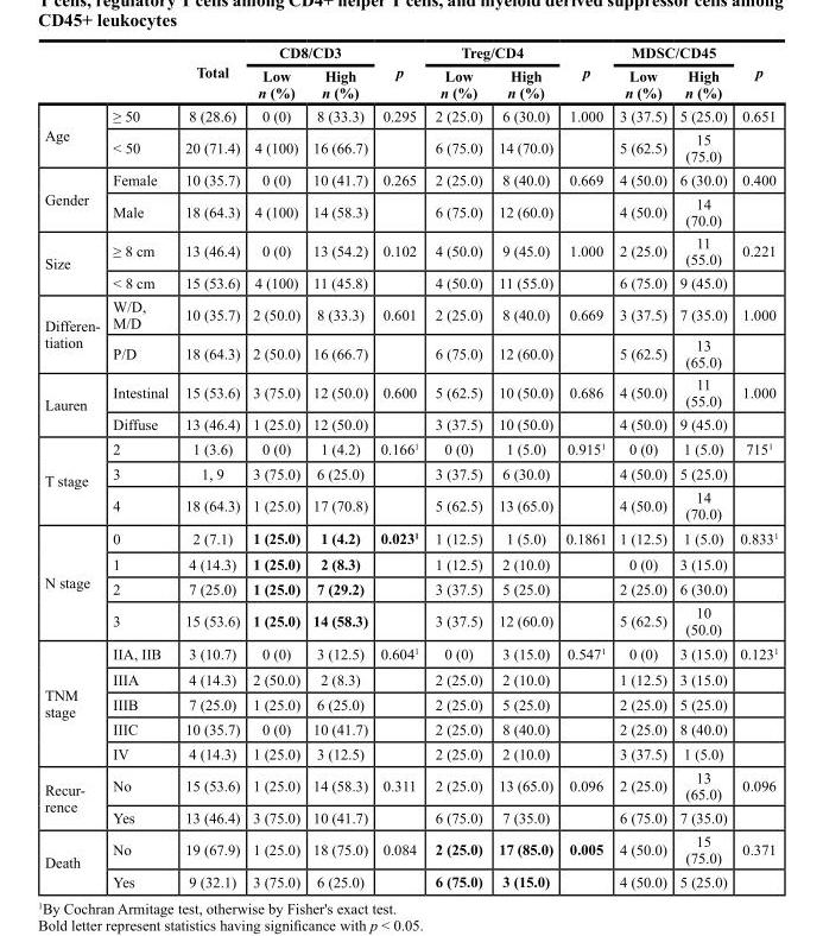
<table><thead><tr><td rowspan="2"></td><td rowspan="2"></td><td rowspan="2">Total</td><td colspan="2">CD8/CD3</td><td rowspan="2">p</td><td colspan="2">Treg/CD4</td><td rowspan="2">p</td><td colspan="2">MDSC/CD45</td><td rowspan="2">p</td></tr><tr><td>Low n (%)</td><td>High n (%)</td><td>Low n (%)</td><td>High n (%)</td><td>Low n (%)</td><td>High n (%)</td></tr></thead><tbody><tr><td rowspan="2">Age</td><td>≥ 50</td><td>8 (28.6)</td><td>0 (0)</td><td>8 (33.3)</td><td>0.295</td><td>2 (25.0)</td><td>6 (30.0)</td><td>1.000</td><td>3 (37.5)</td><td>5 (25.0)</td><td>0.651</td></tr><tr><td>&lt; 50</td><td>20 (71.4)</td><td>4 (100)</td><td>16 (66.7)</td><td></td><td>6 (75.0)</td><td>14 (70.0)</td><td></td><td>5 (62.5)</td><td>15 (75.0)</td><td></td></tr><tr><td rowspan="2">Gender</td><td>Female</td><td>10 (35.7)</td><td>0 (0)</td><td>10 (41.7)</td><td>0.265</td><td>2 (25.0)</td><td>8 (40.0)</td><td>0.669</td><td>4 (50.0)</td><td>6 (30.0)</td><td>0.400</td></tr><tr><td>Male</td><td>18 (64.3)</td><td>4 (100)</td><td>14 (58.3)</td><td></td><td>6 (75.0)</td><td>12 (60.0)</td><td></td><td>4 (50.0)</td><td>14 (70.0)</td><td></td></tr><tr><td rowspan="2">Size</td><td>≥ 8 cm</td><td>13 (46.4)</td><td>0 (0)</td><td>13 (54.2)</td><td>0.102</td><td>4 (50.0)</td><td>9 (45.0)</td><td>1.000</td><td>2 (25.0)</td><td>11 (55.0)</td><td>0.221</td></tr><tr><td>&lt; 8 cm</td><td>15 (53.6)</td><td>4 (100)</td><td>11 (45.8)</td><td></td><td>4 (50.0)</td><td>11 (55.0)</td><td></td><td>6 (75.0)</td><td>9 (45.0)</td><td></td></tr><tr><td rowspan="2">Differen- tiation</td><td>W/D, M/D</td><td>10 (35.7)</td><td>2 (50.0)</td><td>8 (33.3)</td><td>0.601</td><td>2 (25.0)</td><td>8 (40.0)</td><td>0.669</td><td>3 (37.5)</td><td>7 (35.0)</td><td>1.000</td></tr><tr><td>P/D</td><td>18 (64.3)</td><td>2 (50.0)</td><td>16 (66.7)</td><td></td><td>6 (75.0)</td><td>12 (60.0)</td><td></td><td>5 (62.5)</td><td>13 (65.0)</td><td></td></tr><tr><td rowspan="2">Lauren</td><td>Intestinal</td><td>15 (53.6)</td><td>3 (75.0)</td><td>12 (50.0)</td><td>0.600</td><td>5 (62.5)</td><td>10 (50.0)</td><td>0.686</td><td>4 (50.0)</td><td>11 (55.0)</td><td>1.000</td></tr><tr><td>Diffuse</td><td>13 (46.4)</td><td>1 (25.0)</td><td>12 (50.0)</td><td></td><td>3 (37.5)</td><td>10 (50.0)</td><td></td><td>4 (50.0)</td><td>9 (45.0)</td><td></td></tr><tr><td rowspan="3">T stage</td><td>2</td><td>1 (3.6)</td><td>0 (0)</td><td>1 (4.2)</td><td>0.166<sup>1</sup></td><td>0 (0)</td><td>1 (5.0)</td><td>0.915<sup>1</sup></td><td>0 (0)</td><td>1 (5.0)</td><td>715<sup>1</sup></td></tr><tr><td>3</td><td>1, 9</td><td>3 (75.0)</td><td>6 (25.0)</td><td></td><td>3 (37.5)</td><td>6 (30.0)</td><td></td><td>4 (50.0)</td><td>5 (25.0)</td><td></td></tr><tr><td>4</td><td>18 (64.3)</td><td>1 (25.0)</td><td>17 (70.8)</td><td></td><td>5 (62.5)</td><td>13 (65.0)</td><td></td><td>4 (50.0)</td><td>14 (70.0)</td><td></td></tr><tr><td rowspan="4">N stage</td><td>0</td><td>2 (7.1)</td><td>1 (25.0)</td><td>1 (4.2)</td><td>0.023<sup>1</sup></td><td>1 (12.5)</td><td>1 (5.0)</td><td>0.1861</td><td>1 (12.5)</td><td>1 (5.0)</td><td>0.833<sup>1</sup></td></tr><tr><td>1</td><td>4 (14.3)</td><td>1 (25.0)</td><td>2 (8.3)</td><td></td><td>1 (12.5)</td><td>2 (10.0)</td><td></td><td>0 (0)</td><td>3 (15.0)</td><td></td></tr><tr><td>2</td><td>7 (25.0)</td><td>1 (25.0)</td><td>7 (29.2)</td><td></td><td>3 (37.5)</td><td>5 (25.0)</td><td></td><td>2 (25.0)</td><td>6 (30.0)</td><td></td></tr><tr><td>3</td><td>15 (53.6)</td><td>1 (25.0)</td><td>14 (58.3)</td><td></td><td>3 (37.5)</td><td>12 (60.0)</td><td></td><td>5 (62.5)</td><td>10 (50.0)</td><td></td></tr><tr><td rowspan="5">TNM stage</td><td>IIA, IIB</td><td>3 (10.7)</td><td>0 (0)</td><td>3 (12.5)</td><td>0.604<sup>1</sup></td><td>0 (0)</td><td>3 (15.0)</td><td>0.547<sup>1</sup></td><td>0 (0)</td><td>3 (15.0)</td><td>0.123<sup>1</sup></td></tr><tr><td>IIIA</td><td>4 (14.3)</td><td>2 (50.0)</td><td>2 (8.3)</td><td></td><td>2 (25.0)</td><td>2 (10.0)</td><td></td><td>1 (12.5)</td><td>3 (15.0)</td><td></td></tr><tr><td>IIIB</td><td>7 (25.0)</td><td>1 (25.0)</td><td>6 (25.0)</td><td></td><td>2 (25.0)</td><td>5 (25.0)</td><td></td><td>2 (25.0)</td><td>5 (25.0)</td><td></td></tr><tr><td>IIIC</td><td>10 (35.7)</td><td>0 (0)</td><td>10 (41.7)</td><td></td><td>2 (25.0)</td><td>8 (40.0)</td><td></td><td>2 (25.0)</td><td>8 (40.0)</td><td></td></tr><tr><td>IV</td><td>4 (14.3)</td><td>1 (25.0)</td><td>3 (12.5)</td><td></td><td>2 (25.0)</td><td>2 (10.0)</td><td></td><td>3 (37.5)</td><td>1 (5.0)</td><td></td></tr><tr><td rowspan="2">Recur- rence</td><td>No</td><td>15 (53.6)</td><td>1 (25.0)</td><td>14 (58.3)</td><td>0.311</td><td>2 (25.0)</td><td>13 (65.0)</td><td>0.096</td><td>2 (25.0)</td><td>13 (65.0)</td><td>0.096</td></tr><tr><td>Yes</td><td>13 (46.4)</td><td>3 (75.0)</td><td>10 (41.7)</td><td></td><td>6 (75.0)</td><td>7 (35.0)</td><td></td><td>6 (75.0)</td><td>7 (35.0)</td><td></td></tr><tr><td rowspan="2">Death</td><td>No</td><td>19 (67.9)</td><td>1 (25.0)</td><td>18 (75.0)</td><td>0.084</td><td>2 (25.0)</td><td>17 (85.0)</td><td>0.005</td><td>4 (50.0)</td><td>15 (75.0)</td><td>0.371</td></tr><tr><td>Yes</td><td>9 (32.1)</td><td>3 (75.0)</td><td>6 (25.0)</td><td></td><td>6 (75.0)</td><td>3 (15.0)</td><td></td><td>4 (50.0)</td><td>5 (25.0)</td><td></td></tr></tbody></table>